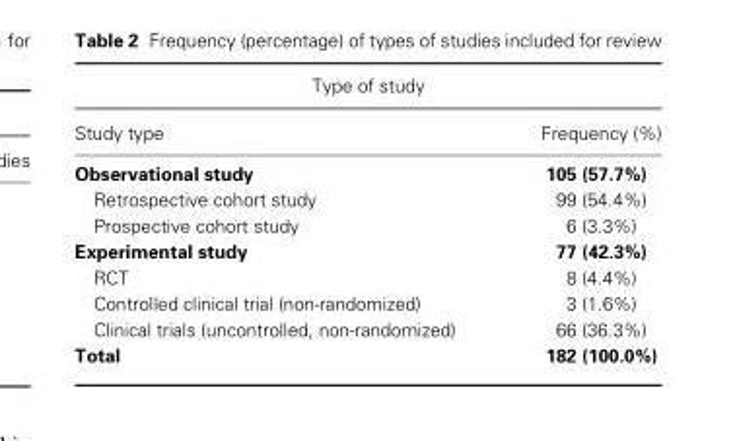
<table><thead><tr><td colspan="2">Type of study</td></tr><tr><td>Study type</td><td>Frequency (%)</td></tr></thead><tbody><tr><td>Observational study</td><td>105 (57.7%)</td></tr><tr><td>Retrospective cohort study</td><td>99 (54.4%)</td></tr><tr><td>Prospective cohort study</td><td>6 (3.3%)</td></tr><tr><td>Experimental study</td><td>77 (42.3%)</td></tr><tr><td>RCT</td><td>8 (4.4%)</td></tr><tr><td>Controlled clinical trial (non-randomized)</td><td>3 (1.6%)</td></tr><tr><td>Clinical trials (uncontrolled, non-randomized)</td><td>66 (36.3%)</td></tr><tr><td>Total</td><td>182 (100.0%)</td></tr></tbody></table>